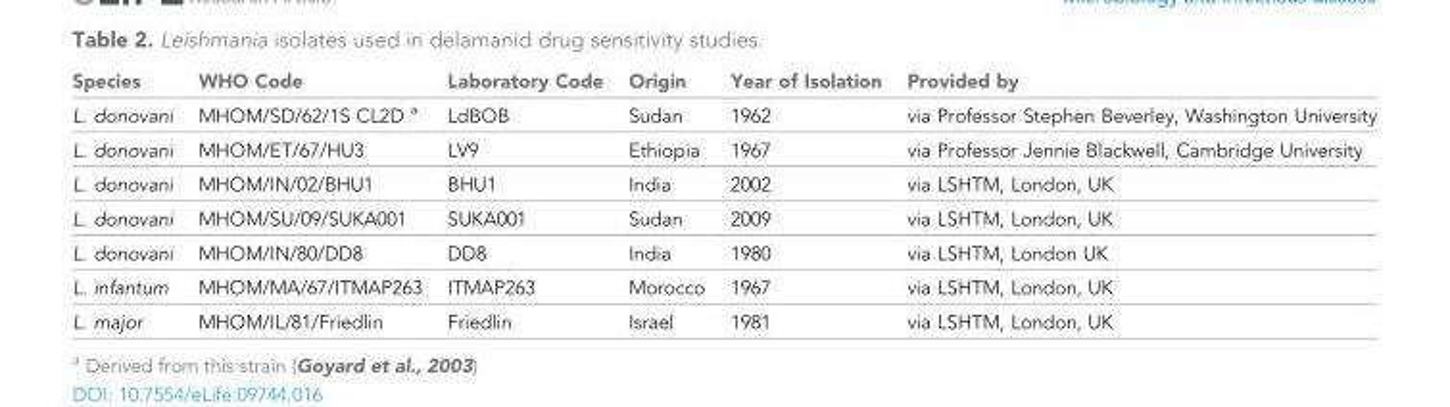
<table><thead><tr><td>Species</td><td>WHO Code</td><td>Laboratory Code</td><td>Origin</td><td>Year of Isolation</td><td>Provided by</td></tr></thead><tbody><tr><td>L. donovani</td><td>MHOM/SD/62/1S CL2D <sup>a</sup></td><td>LdBOB</td><td>Sudan</td><td>1962</td><td>via Professor Stephen Beverley, Washington University</td></tr><tr><td>L. donovani</td><td>MHOM/ET/67/HU3</td><td>LV9</td><td>Ethiopia</td><td>1967</td><td>via Professor Jennie Blackwell, Cambridge University</td></tr><tr><td>L. donovani</td><td>MHOM/IN/02/BHU1</td><td>BHU1</td><td>India</td><td>2002</td><td>via LSHTM, London, UK</td></tr><tr><td>L. donovani</td><td>MHOM/SU/09/SUKA001</td><td>SUKA001</td><td>Sudan</td><td>2009</td><td>via LSHTM, London, UK</td></tr><tr><td>L. donovani</td><td>MHOM/IN/80/DD8</td><td>DD8</td><td>India</td><td>1980</td><td>via LSHTM, London UK</td></tr><tr><td>L. infantum</td><td>MHOM/MA/67/ITMAP263</td><td>ITMAP263</td><td>Morocco</td><td>1967</td><td>via LSHTM, London, UK</td></tr><tr><td>L. major</td><td>MHOM/IL/81/Friedlin</td><td>Friedlin</td><td>Israel</td><td>1981</td><td>via LSHTM, London, UK</td></tr></tbody></table>